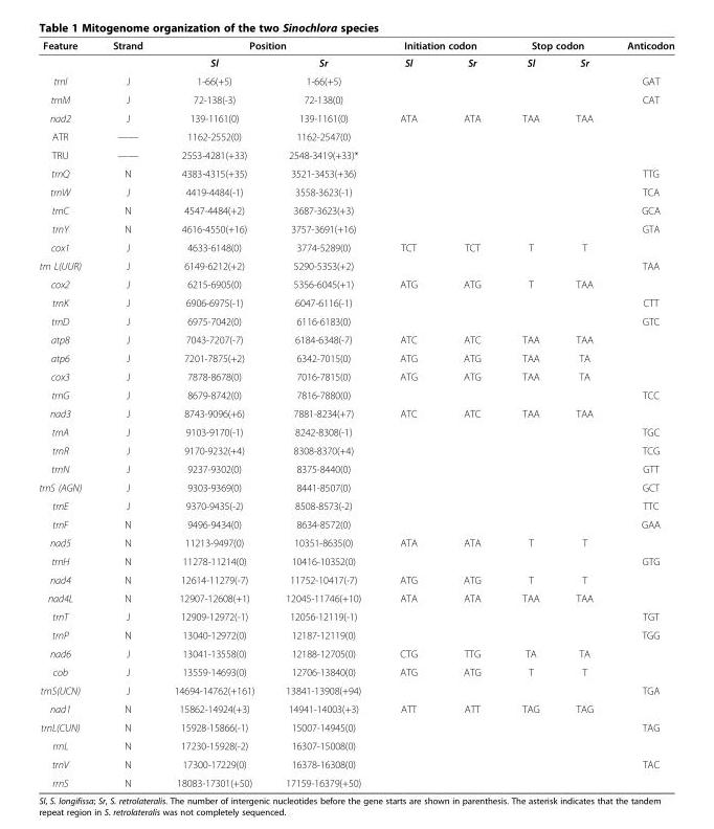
<table><thead><tr><td rowspan="2">Feature</td><td rowspan="2">Strand</td><td colspan="2">Position</td><td colspan="2">Initiation codon</td><td colspan="2">Stop codon</td><td rowspan="2">Anticodon</td></tr><tr><td>Sl</td><td>Sr</td><td>Sl</td><td>Sr</td><td>Sl</td><td>Sr</td></tr></thead><tbody><tr><td>trnI</td><td>J</td><td>1-66(+5)</td><td>1-66(+5)</td><td></td><td></td><td></td><td></td><td>GAT</td></tr><tr><td>trnM</td><td>J</td><td>72-138(-3)</td><td>72-138(0)</td><td></td><td></td><td></td><td></td><td>CAT</td></tr><tr><td>nad2</td><td>J</td><td>139-1161(0)</td><td>139-1161(0)</td><td>ATA</td><td>ATA</td><td>TAA</td><td>TAA</td><td></td></tr><tr><td>ATR</td><td>——</td><td>1162-2552(0)</td><td>1162-2547(0)</td><td></td><td></td><td></td><td></td><td></td></tr><tr><td>TRU</td><td>——</td><td>2553-4281(+33)</td><td>2548-3419(+33)*</td><td></td><td></td><td></td><td></td><td></td></tr><tr><td>trnQ</td><td>N</td><td>4383-4315(+35)</td><td>3521-3453(+36)</td><td></td><td></td><td></td><td></td><td>TTG</td></tr><tr><td>trnW</td><td>J</td><td>4419-4484(-1)</td><td>3558-3623(-1)</td><td></td><td></td><td></td><td></td><td>TCA</td></tr><tr><td>trnC</td><td>N</td><td>4547-4484(+2)</td><td>3687-3623(+3)</td><td></td><td></td><td></td><td></td><td>GCA</td></tr><tr><td>trnY</td><td>N</td><td>4616-4550(+16)</td><td>3757-3691(+16)</td><td></td><td></td><td></td><td></td><td>GTA</td></tr><tr><td>cox1</td><td>J</td><td>4633-6148(0)</td><td>3774-5289(0)</td><td>TCT</td><td>TCT</td><td>T</td><td>T</td><td></td></tr><tr><td>trn L(UUR)</td><td>J</td><td>6149-6212(+2)</td><td>5290-5353(+2)</td><td></td><td></td><td></td><td></td><td>TAA</td></tr><tr><td>cox2</td><td>J</td><td>6215-6905(0)</td><td>5356-6045(+1)</td><td>ATG</td><td>ATG</td><td>T</td><td>TAA</td><td></td></tr><tr><td>trnK</td><td>J</td><td>6906-6975(-1)</td><td>6047-6116(-1)</td><td></td><td></td><td></td><td></td><td>CTT</td></tr><tr><td>trnD</td><td>J</td><td>6975-7042(0)</td><td>6116-6183(0)</td><td></td><td></td><td></td><td></td><td>GTC</td></tr><tr><td>atp8</td><td>J</td><td>7043-7207(-7)</td><td>6184-6348(-7)</td><td>ATC</td><td>ATC</td><td>TAA</td><td>TAA</td><td></td></tr><tr><td>atp6</td><td>J</td><td>7201-7875(+2)</td><td>6342-7015(0)</td><td>ATG</td><td>ATG</td><td>TAA</td><td>TA</td><td></td></tr><tr><td>cox3</td><td>J</td><td>7878-8678(0)</td><td>7016-7815(0)</td><td>ATG</td><td>ATG</td><td>TAA</td><td>TA</td><td></td></tr><tr><td>trnG</td><td>J</td><td>8679-8742(0)</td><td>7816-7880(0)</td><td></td><td></td><td></td><td></td><td>TCC</td></tr><tr><td>nad3</td><td>J</td><td>8743-9096(+6)</td><td>7881-8234(+7)</td><td>ATC</td><td>ATC</td><td>TAA</td><td>TAA</td><td></td></tr><tr><td>trnA</td><td>J</td><td>9103-9170(-1)</td><td>8242-8308(-1)</td><td></td><td></td><td></td><td></td><td>TGC</td></tr><tr><td>trnR</td><td>J</td><td>9170-9232(+4)</td><td>8308-8370(+4)</td><td></td><td></td><td></td><td></td><td>TCG</td></tr><tr><td>trnN</td><td>J</td><td>9237-9302(0)</td><td>8375-8440(0)</td><td></td><td></td><td></td><td></td><td>GTT</td></tr><tr><td>trnS (AGN)</td><td>J</td><td>9303-9369(0)</td><td>8441-8507(0)</td><td></td><td></td><td></td><td></td><td>GCT</td></tr><tr><td>trnE</td><td>J</td><td>9370-9435(-2)</td><td>8508-8573(-2)</td><td></td><td></td><td></td><td></td><td>TTC</td></tr><tr><td>trnF</td><td>N</td><td>9496-9434(0)</td><td>8634-8572(0)</td><td></td><td></td><td></td><td></td><td>GAA</td></tr><tr><td>nad5</td><td>N</td><td>11213-9497(0)</td><td>10351-8635(0)</td><td>ATA</td><td>ATA</td><td>T</td><td>T</td><td></td></tr><tr><td>trnH</td><td>N</td><td>11278-11214(0)</td><td>10416-10352(0)</td><td></td><td></td><td></td><td></td><td>GTG</td></tr><tr><td>nad4</td><td>N</td><td>12614-11279(-7)</td><td>11752-10417(-7)</td><td>ATG</td><td>ATG</td><td>T</td><td>T</td><td></td></tr><tr><td>nad4L</td><td>N</td><td>12907-12608(+1)</td><td>12045-11746(+10)</td><td>ATA</td><td>ATA</td><td>TAA</td><td>TAA</td><td></td></tr><tr><td>trnT</td><td>J</td><td>12909-12972(-1)</td><td>12056-12119(-1)</td><td></td><td></td><td></td><td></td><td>TGT</td></tr><tr><td>trnP</td><td>N</td><td>13040-12972(0)</td><td>12187-12119(0)</td><td></td><td></td><td></td><td></td><td>TGG</td></tr><tr><td>nad6</td><td>J</td><td>13041-13558(0)</td><td>12188-12705(0)</td><td>CTG</td><td>TTG</td><td>TA</td><td>TA</td><td></td></tr><tr><td>cob</td><td>J</td><td>13559-14693(0)</td><td>12706-13840(0)</td><td>ATG</td><td>ATG</td><td>T</td><td>T</td><td></td></tr><tr><td>trnS(UCN)</td><td>J</td><td>14694-14762(+161)</td><td>13841-13908(+94)</td><td></td><td></td><td></td><td></td><td>TGA</td></tr><tr><td>nad1</td><td>N</td><td>15862-14924(+3)</td><td>14941-14003(+3)</td><td>ATT</td><td>ATT</td><td>TAG</td><td>TAG</td><td></td></tr><tr><td>trnL(CUN)</td><td>N</td><td>15928-15866(-1)</td><td>15007-14945(0)</td><td></td><td></td><td></td><td></td><td>TAG</td></tr><tr><td>rrnL</td><td>N</td><td>17230-15928(-2)</td><td>16307-15008(0)</td><td></td><td></td><td></td><td></td><td></td></tr><tr><td>trnV</td><td>N</td><td>17300-17229(0)</td><td>16378-16308(0)</td><td></td><td></td><td></td><td></td><td>TAC</td></tr><tr><td>rrnS</td><td>N</td><td>18083-17301(+50)</td><td>17159-16379(+50)</td><td></td><td></td><td></td><td></td><td></td></tr></tbody></table>